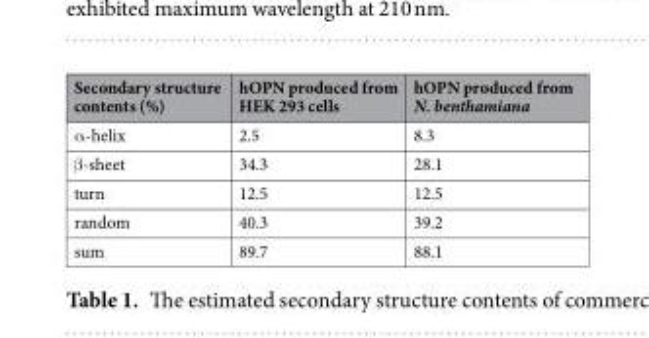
<table><thead><tr><td>Secondary structure contents (%)</td><td>hOPN produced from HEK 293 cells</td><td>hOPN produced from N. benthamiana</td></tr></thead><tbody><tr><td>α-helix</td><td>2.5</td><td>8.3</td></tr><tr><td>β-sheet</td><td>34.3</td><td>28.1</td></tr><tr><td>turn</td><td>12.5</td><td>12.5</td></tr><tr><td>random</td><td>40.3</td><td>39.2</td></tr><tr><td>sum</td><td>89.7</td><td>88.1</td></tr></tbody></table>